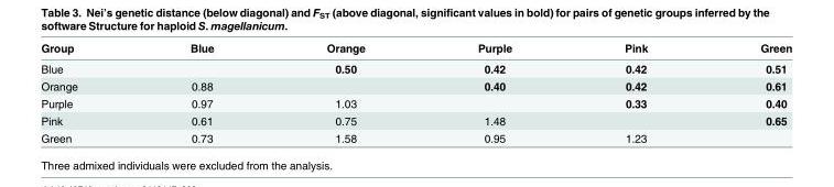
<table><thead><tr><td>Group</td><td>Blue</td><td>Orange</td><td>Purple</td><td>Pink</td><td>Green</td></tr></thead><tbody><tr><td>Blue</td><td></td><td>0.50</td><td>0.42</td><td>0.42</td><td>0.51</td></tr><tr><td>Orange</td><td>0.88</td><td></td><td>0.40</td><td>0.42</td><td>0.61</td></tr><tr><td>Purple</td><td>0.97</td><td>1.03</td><td></td><td>0.33</td><td>0.40</td></tr><tr><td>Pink</td><td>0.61</td><td>0.75</td><td>1.48</td><td></td><td>0.65</td></tr><tr><td>Green</td><td>0.73</td><td>1.58</td><td>0.95</td><td>1.23</td><td></td></tr></tbody></table>